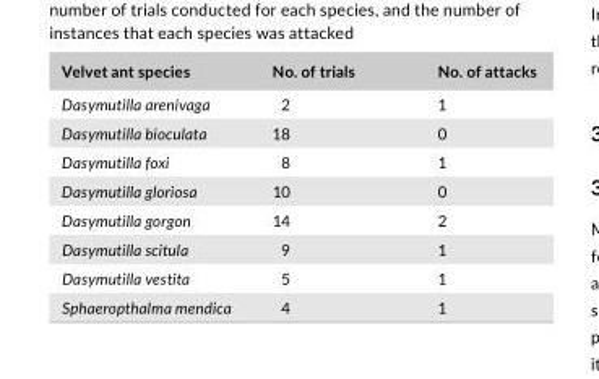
<table><thead><tr><td>Velvet ant species</td><td>No. of trials</td><td>No. of attacks</td></tr></thead><tbody><tr><td>Dasymutilla arenivaga</td><td>2</td><td>1</td></tr><tr><td>Dasymutilla bioculata</td><td>18</td><td>0</td></tr><tr><td>Dasymutilla foxi</td><td>8</td><td>1</td></tr><tr><td>Dasymutilla gloriosa</td><td>10</td><td>0</td></tr><tr><td>Dasymutilla gorgon</td><td>14</td><td>2</td></tr><tr><td>Dasymutilla scitula</td><td>9</td><td>1</td></tr><tr><td>Dasymutilla vestita</td><td>5</td><td>1</td></tr><tr><td>Sphaeropthalma mendica</td><td>4</td><td>1</td></tr></tbody></table>